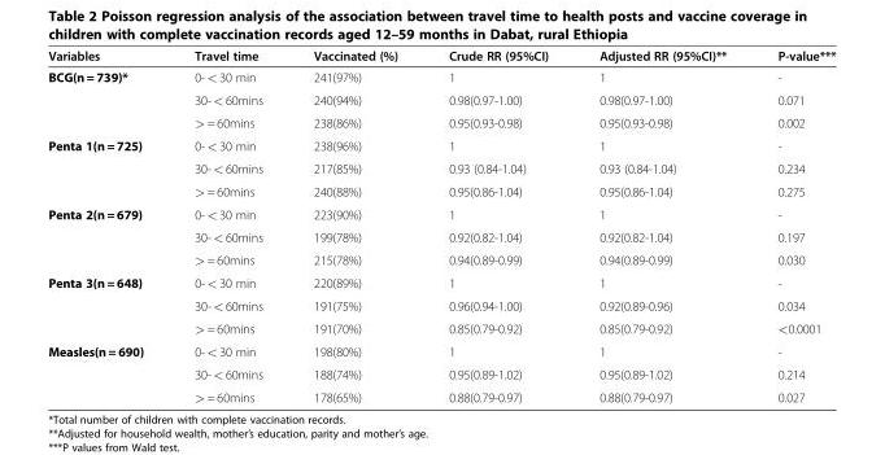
<table><thead><tr><td>Variables</td><td>Travel time</td><td>Vaccinated (%)</td><td>Crude RR (95%CI)</td><td>Adjusted RR (95%CI)**</td><td>P-value***</td></tr></thead><tbody><tr><td rowspan="3">BCG(n = 739)*</td><td>0- &lt; 30 min</td><td>241(97%)</td><td>1</td><td>1</td><td>-</td></tr><tr><td>30- &lt; 60mins</td><td>240(94%)</td><td>0.98(0.97-1.00)</td><td>0.98(0.97-1.00)</td><td>0.071</td></tr><tr><td>&gt; = 60mins</td><td>238(86%)</td><td>0.95(0.93-0.98)</td><td>0.95(0.93-0.98)</td><td>0.002</td></tr><tr><td rowspan="3">Penta 1(n = 725)</td><td>0- &lt; 30 min</td><td>238(96%)</td><td>1</td><td>1</td><td>-</td></tr><tr><td>30- &lt; 60mins</td><td>217(85%)</td><td>0.93 (0.84-1.04)</td><td>0.93 (0.84-1.04)</td><td>0.234</td></tr><tr><td>&gt; = 60mins</td><td>240(88%)</td><td>0.95(0.86-1.04)</td><td>0.95(0.86-1.04)</td><td>0.275</td></tr><tr><td rowspan="3">Penta 2(n = 679)</td><td>0- &lt; 30 min</td><td>223(90%)</td><td>1</td><td>1</td><td>-</td></tr><tr><td>30- &lt; 60mins</td><td>199(78%)</td><td>0.92(0.82-1.04)</td><td>0.92(0.82-1.04)</td><td>0.197</td></tr><tr><td>&gt; = 60mins</td><td>215(78%)</td><td>0.94(0.89-0.99)</td><td>0.94(0.89-0.99)</td><td>0.030</td></tr><tr><td rowspan="3">Penta 3(n = 648)</td><td>0- &lt; 30 min</td><td>220(89%)</td><td>1</td><td>1</td><td>-</td></tr><tr><td>30- &lt; 60mins</td><td>191(75%)</td><td>0.96(0.94-1.00)</td><td>0.92(0.89-0.96)</td><td>0.034</td></tr><tr><td>&gt; = 60mins</td><td>191(70%)</td><td>0.85(0.79-0.92)</td><td>0.85(0.79-0.92)</td><td>&lt;0.0001</td></tr><tr><td rowspan="3">Measles(n = 690)</td><td>0- &lt; 30 min</td><td>198(80%)</td><td>1</td><td>1</td><td>-</td></tr><tr><td>30- &lt; 60mins</td><td>188(74%)</td><td>0.95(0.89-1.02)</td><td>0.95(0.89-1.02)</td><td>0.214</td></tr><tr><td>&gt; = 60mins</td><td>178(65%)</td><td>0.88(0.79-0.97)</td><td>0.88(0.79-0.97)</td><td>0.027</td></tr></tbody></table>